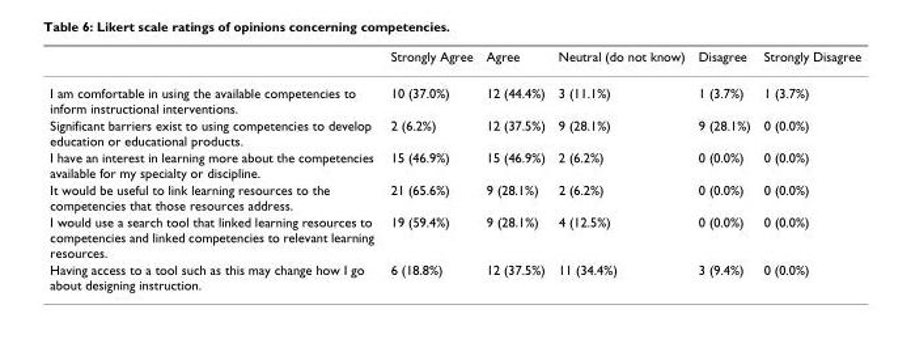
<table><thead><tr><td></td><td>Strongly Agree</td><td>Agree</td><td>Neutral (do not know)</td><td>Disagree</td><td>Strongly Disagree</td></tr></thead><tbody><tr><td>I am comfortable in using the available competencies to inform instructional interventions.</td><td>10 (37.0%)</td><td>12 (44.4%)</td><td>3 (11.1%)</td><td>1 (3.7%)</td><td>1 (3.7%)</td></tr><tr><td>Significant barriers exist to using competencies to develop education or educational products.</td><td>2 (6.2%)</td><td>12 (37.5%)</td><td>9 (28.1%)</td><td>9 (28.1%)</td><td>0 (0.0%)</td></tr><tr><td>I have an interest in learning more about the competencies available for my specialty or discipline.</td><td>15 (46.9%)</td><td>15 (46.9%)</td><td>2 (6.2%)</td><td>0 (0.0%)</td><td>0 (0.0%)</td></tr><tr><td>It would be useful to link learning resources to the competencies that those resources address.</td><td>21 (65.6%)</td><td>9 (28.1%)</td><td>2 (6.2%)</td><td>0 (0.0%)</td><td>0 (0.0%)</td></tr><tr><td>I would use a search tool that linked learning resources to competencies and linked competencies to relevant learning resources.</td><td>19 (59.4%)</td><td>9 (28.1%)</td><td>4 (12.5%)</td><td>0 (0.0%)</td><td>0 (0.0%)</td></tr><tr><td>Having access to a tool such as this may change how I go about designing instruction.</td><td>6 (18.8%)</td><td>12 (37.5%)</td><td>11 (34.4%)</td><td>3 (9.4%)</td><td>0 (0.0%)</td></tr></tbody></table>